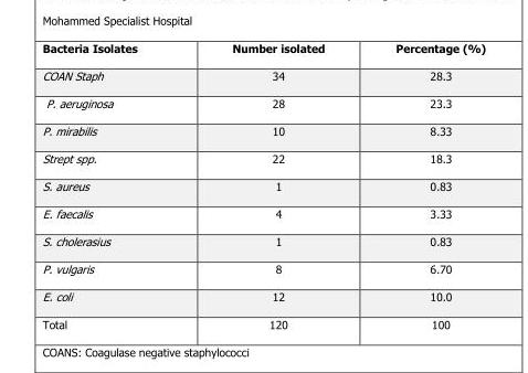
<table><thead><tr><td>Bacteria Isolates</td><td>Number isolated</td><td>Percentage (%)</td></tr></thead><tbody><tr><td>COAN Staph</td><td>34</td><td>28.3</td></tr><tr><td>P. aeruginosa</td><td>28</td><td>23.3</td></tr><tr><td>P. mirabilis</td><td>10</td><td>8.33</td></tr><tr><td>Strept spp.</td><td>22</td><td>18.3</td></tr><tr><td>S. aureus</td><td>1</td><td>0.83</td></tr><tr><td>E. faecalis</td><td>4</td><td>3.33</td></tr><tr><td>S. cholerasius</td><td>1</td><td>0.83</td></tr><tr><td>P. vulgaris</td><td>8</td><td>6.70</td></tr><tr><td>E. coli</td><td>12</td><td>10.0</td></tr><tr><td>Total</td><td>120</td><td>100</td></tr></tbody></table>